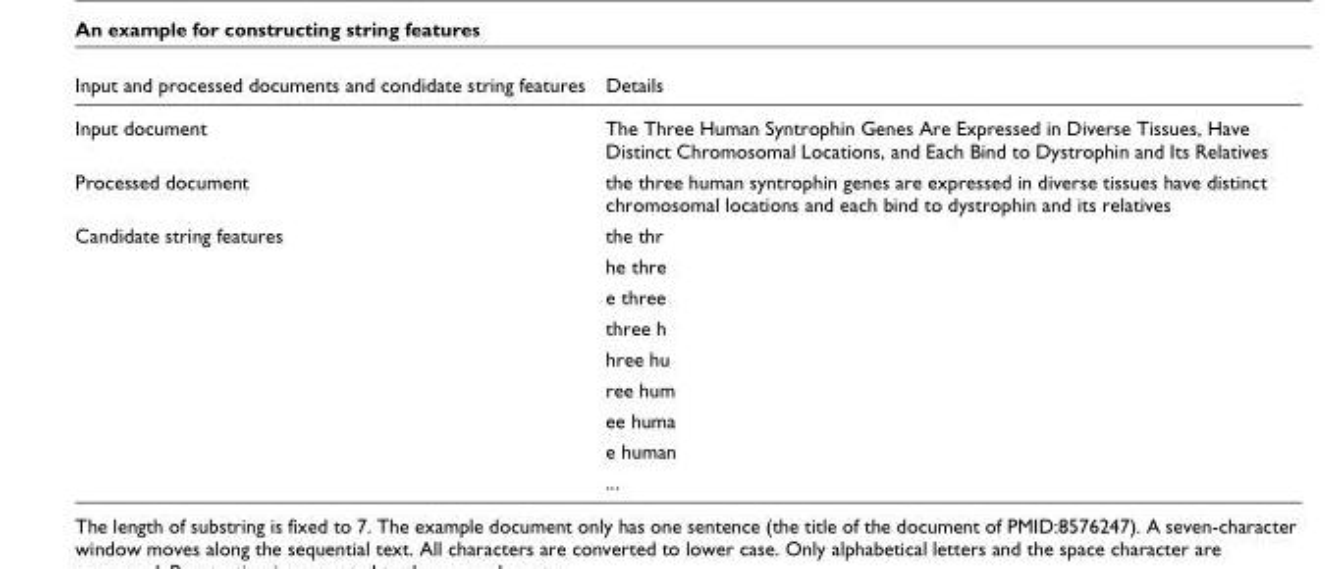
<table><thead><tr><td>Input and processed documents and condidate string features</td><td>Details</td></tr></thead><tbody><tr><td>Input document</td><td>The Three Human Syntrophin Genes Are Expressed in Diverse Tissues, Have Distinct Chromosomal Locations, and Each Bind to Dystrophin and Its Relatives</td></tr><tr><td>Processed document</td><td>the three human syntrophin genes are expressed in diverse tissues have distinct chromosomal locations and each bind to dystrophin and its relatives</td></tr><tr><td rowspan="9">Candidate string features</td><td>the thr</td></tr><tr><td>he thre</td></tr><tr><td>e three</td></tr><tr><td>three h</td></tr><tr><td>hree hu</td></tr><tr><td>ree hum</td></tr><tr><td>ee huma</td></tr><tr><td>e human</td></tr><tr><td>...</td></tr></tbody></table>